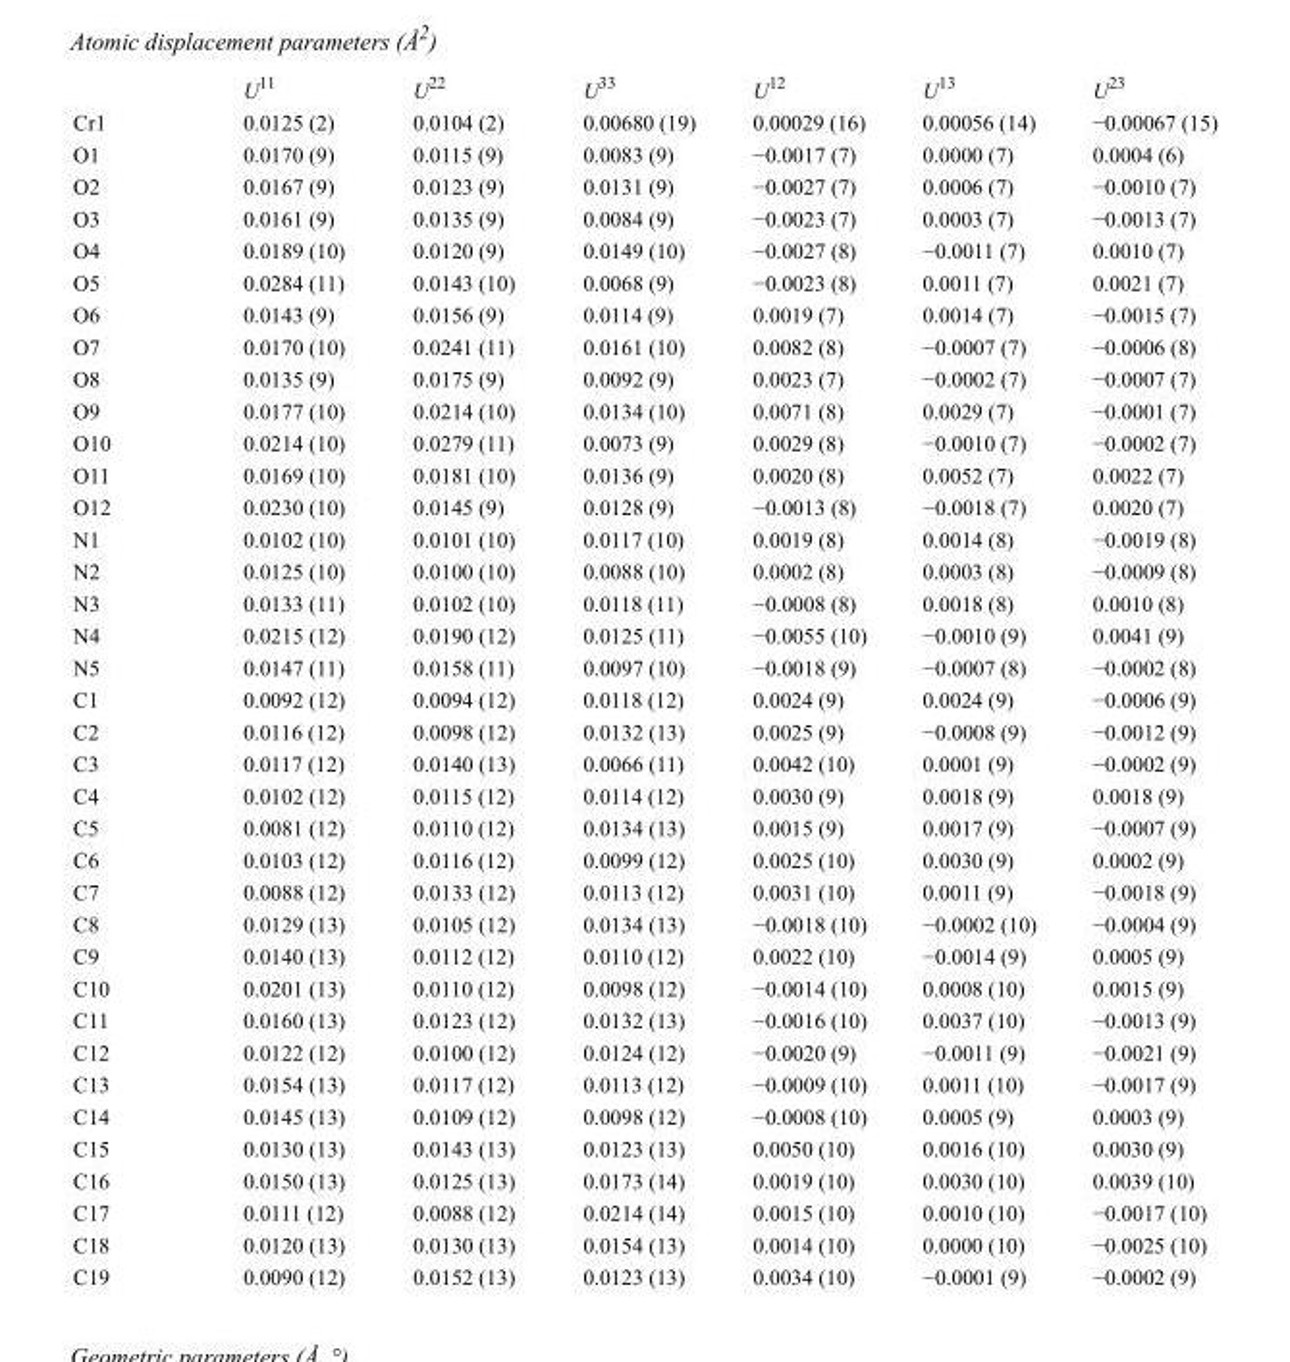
<table><thead><tr><td></td><td>U<sup>11</sup></td><td>U<sup>22</sup></td><td>U<sup>33</sup></td><td>U<sup>12</sup></td><td>U<sup>13</sup></td><td>U<sup>23</sup></td></tr></thead><tbody><tr><td>Cr1</td><td>0.0125 (2)</td><td>0.0104 (2)</td><td>0.00680 (19)</td><td>0.00029 (16)</td><td>0.00056 (14)</td><td>−0.00067 (15)</td></tr><tr><td>O1</td><td>0.0170 (9)</td><td>0.0115 (9)</td><td>0.0083 (9)</td><td>−0.0017 (7)</td><td>0.0000 (7)</td><td>0.0004 (6)</td></tr><tr><td>O2</td><td>0.0167 (9)</td><td>0.0123 (9)</td><td>0.0131 (9)</td><td>−0.0027 (7)</td><td>0.0006 (7)</td><td>−0.0010 (7)</td></tr><tr><td>O3</td><td>0.0161 (9)</td><td>0.0135 (9)</td><td>0.0084 (9)</td><td>−0.0023 (7)</td><td>0.0003 (7)</td><td>−0.0013 (7)</td></tr><tr><td>O4</td><td>0.0189 (10)</td><td>0.0120 (9)</td><td>0.0149 (10)</td><td>−0.0027 (8)</td><td>−0.0011 (7)</td><td>0.0010 (7)</td></tr><tr><td>O5</td><td>0.0284 (11)</td><td>0.0143 (10)</td><td>0.0068 (9)</td><td>−0.0023 (8)</td><td>0.0011 (7)</td><td>0.0021 (7)</td></tr><tr><td>O6</td><td>0.0143 (9)</td><td>0.0156 (9)</td><td>0.0114 (9)</td><td>0.0019 (7)</td><td>0.0014 (7)</td><td>−0.0015 (7)</td></tr><tr><td>O7</td><td>0.0170 (10)</td><td>0.0241 (11)</td><td>0.0161 (10)</td><td>0.0082 (8)</td><td>−0.0007 (7)</td><td>−0.0006 (8)</td></tr><tr><td>O8</td><td>0.0135 (9)</td><td>0.0175 (9)</td><td>0.0092 (9)</td><td>0.0023 (7)</td><td>−0.0002 (7)</td><td>−0.0007 (7)</td></tr><tr><td>O9</td><td>0.0177 (10)</td><td>0.0214 (10)</td><td>0.0134 (10)</td><td>0.0071 (8)</td><td>0.0029 (7)</td><td>−0.0001 (7)</td></tr><tr><td>O10</td><td>0.0214 (10)</td><td>0.0279 (11)</td><td>0.0073 (9)</td><td>0.0029 (8)</td><td>−0.0010 (7)</td><td>−0.0002 (7)</td></tr><tr><td>O11</td><td>0.0169 (10)</td><td>0.0181 (10)</td><td>0.0136 (9)</td><td>0.0020 (8)</td><td>0.0052 (7)</td><td>0.0022 (7)</td></tr><tr><td>O12</td><td>0.0230 (10)</td><td>0.0145 (9)</td><td>0.0128 (9)</td><td>−0.0013 (8)</td><td>−0.0018 (7)</td><td>0.0020 (7)</td></tr><tr><td>N1</td><td>0.0102 (10)</td><td>0.0101 (10)</td><td>0.0117 (10)</td><td>0.0019 (8)</td><td>0.0014 (8)</td><td>−0.0019 (8)</td></tr><tr><td>N2</td><td>0.0125 (10)</td><td>0.0100 (10)</td><td>0.0088 (10)</td><td>0.0002 (8)</td><td>0.0003 (8)</td><td>−0.0009 (8)</td></tr><tr><td>N3</td><td>0.0133 (11)</td><td>0.0102 (10)</td><td>0.0118 (11)</td><td>−0.0008 (8)</td><td>0.0018 (8)</td><td>0.0010 (8)</td></tr><tr><td>N4</td><td>0.0215 (12)</td><td>0.0190 (12)</td><td>0.0125 (11)</td><td>−0.0055 (10)</td><td>−0.0010 (9)</td><td>0.0041 (9)</td></tr><tr><td>N5</td><td>0.0147 (11)</td><td>0.0158 (11)</td><td>0.0097 (10)</td><td>−0.0018 (9)</td><td>−0.0007 (8)</td><td>−0.0002 (8)</td></tr><tr><td>C1</td><td>0.0092 (12)</td><td>0.0094 (12)</td><td>0.0118 (12)</td><td>0.0024 (9)</td><td>0.0024 (9)</td><td>−0.0006 (9)</td></tr><tr><td>C2</td><td>0.0116 (12)</td><td>0.0098 (12)</td><td>0.0132 (13)</td><td>0.0025 (9)</td><td>−0.0008 (9)</td><td>−0.0012 (9)</td></tr><tr><td>C3</td><td>0.0117 (12)</td><td>0.0140 (13)</td><td>0.0066 (11)</td><td>0.0042 (10)</td><td>0.0001 (9)</td><td>−0.0002 (9)</td></tr><tr><td>C4</td><td>0.0102 (12)</td><td>0.0115 (12)</td><td>0.0114 (12)</td><td>0.0030 (9)</td><td>0.0018 (9)</td><td>0.0018 (9)</td></tr><tr><td>C5</td><td>0.0081 (12)</td><td>0.0110 (12)</td><td>0.0134 (13)</td><td>0.0015 (9)</td><td>0.0017 (9)</td><td>−0.0007 (9)</td></tr><tr><td>C6</td><td>0.0103 (12)</td><td>0.0116 (12)</td><td>0.0099 (12)</td><td>0.0025 (10)</td><td>0.0030 (9)</td><td>0.0002 (9)</td></tr><tr><td>C7</td><td>0.0088 (12)</td><td>0.0133 (12)</td><td>0.0113 (12)</td><td>0.0031 (10)</td><td>0.0011 (9)</td><td>−0.0018 (9)</td></tr><tr><td>C8</td><td>0.0129 (13)</td><td>0.0105 (12)</td><td>0.0134 (13)</td><td>−0.0018 (10)</td><td>−0.0002 (10)</td><td>−0.0004 (9)</td></tr><tr><td>C9</td><td>0.0140 (13)</td><td>0.0112 (12)</td><td>0.0110 (12)</td><td>0.0022 (10)</td><td>−0.0014 (9)</td><td>0.0005 (9)</td></tr><tr><td>C10</td><td>0.0201 (13)</td><td>0.0110 (12)</td><td>0.0098 (12)</td><td>−0.0014 (10)</td><td>0.0008 (10)</td><td>0.0015 (9)</td></tr><tr><td>C11</td><td>0.0160 (13)</td><td>0.0123 (12)</td><td>0.0132 (13)</td><td>−0.0016 (10)</td><td>0.0037 (10)</td><td>−0.0013 (9)</td></tr><tr><td>C12</td><td>0.0122 (12)</td><td>0.0100 (12)</td><td>0.0124 (12)</td><td>−0.0020 (9)</td><td>−0.0011 (9)</td><td>−0.0021 (9)</td></tr><tr><td>C13</td><td>0.0154 (13)</td><td>0.0117 (12)</td><td>0.0113 (12)</td><td>−0.0009 (10)</td><td>0.0011 (10)</td><td>−0.0017 (9)</td></tr><tr><td>C14</td><td>0.0145 (13)</td><td>0.0109 (12)</td><td>0.0098 (12)</td><td>−0.0008 (10)</td><td>0.0005 (9)</td><td>0.0003 (9)</td></tr><tr><td>C15</td><td>0.0130 (13)</td><td>0.0143 (13)</td><td>0.0123 (13)</td><td>0.0050 (10)</td><td>0.0016 (10)</td><td>0.0030 (9)</td></tr><tr><td>C16</td><td>0.0150 (13)</td><td>0.0125 (13)</td><td>0.0173 (14)</td><td>0.0019 (10)</td><td>0.0030 (10)</td><td>0.0039 (10)</td></tr><tr><td>C17</td><td>0.0111 (12)</td><td>0.0088 (12)</td><td>0.0214 (14)</td><td>0.0015 (10)</td><td>0.0010 (10)</td><td>−0.0017 (10)</td></tr><tr><td>C18</td><td>0.0120 (13)</td><td>0.0130 (13)</td><td>0.0154 (13)</td><td>0.0014 (10)</td><td>0.0000 (10)</td><td>−0.0025 (10)</td></tr><tr><td>C19</td><td>0.0090 (12)</td><td>0.0152 (13)</td><td>0.0123 (13)</td><td>0.0034 (10)</td><td>−0.0001 (9)</td><td>−0.0002 (9)</td></tr></tbody></table>